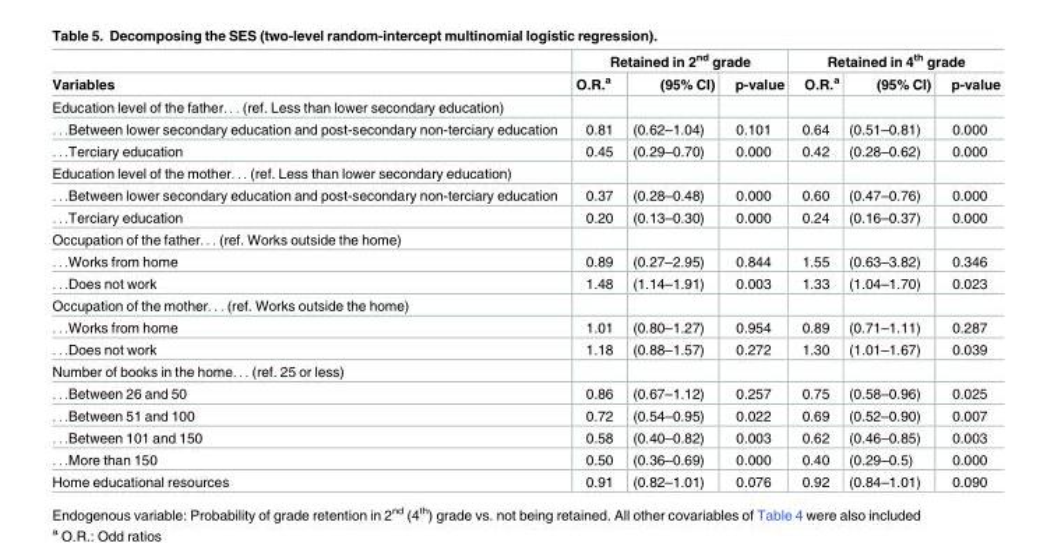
<table><thead><tr><td rowspan="2">Variables</td><td colspan="3">Retained in 2<sup>nd</sup> grade</td><td colspan="3">Retained in 4<sup>th</sup> grade</td></tr><tr><td>O.R.<sup>a</sup></td><td>(95% CI)</td><td>p-value</td><td>O.R.<sup>a</sup></td><td>(95% CI)</td><td>p-value</td></tr></thead><tbody><tr><td colspan="7">Education level of the father. . . (ref. Less than lower secondary education)</td></tr><tr><td>. . .Between lower secondary education and post-secondary non-terciary education</td><td>0.81</td><td>(0.62–1.04)</td><td>0.101</td><td>0.64</td><td>(0.51–0.81)</td><td>0.000</td></tr><tr><td>. . .Terciary education</td><td>0.45</td><td>(0.29–0.70)</td><td>0.000</td><td>0.42</td><td>(0.28–0.62)</td><td>0.000</td></tr><tr><td colspan="7">Education level of the mother. . . (ref. Less than lower secondary education)</td></tr><tr><td>. . .Between lower secondary education and post-secondary non-terciary education</td><td>0.37</td><td>(0.28–0.48)</td><td>0.000</td><td>0.60</td><td>(0.47–0.76)</td><td>0.000</td></tr><tr><td>. . .Terciary education</td><td>0.20</td><td>(0.13–0.30)</td><td>0.000</td><td>0.24</td><td>(0.16–0.37)</td><td>0.000</td></tr><tr><td colspan="7">Occupation of the father. . . (ref. Works outside the home)</td></tr><tr><td>. . .Works from home</td><td>0.89</td><td>(0.27–2.95)</td><td>0.844</td><td>1.55</td><td>(0.63–3.82)</td><td>0.346</td></tr><tr><td>. . .Does not work</td><td>1.48</td><td>(1.14–1.91)</td><td>0.003</td><td>1.33</td><td>(1.04–1.70)</td><td>0.023</td></tr><tr><td colspan="7">Occupation of the mother. . . (ref. Works outside the home)</td></tr><tr><td>. . .Works from home</td><td>1.01</td><td>(0.80–1.27)</td><td>0.954</td><td>0.89</td><td>(0.71–1.11)</td><td>0.287</td></tr><tr><td>. . .Does not work</td><td>1.18</td><td>(0.88–1.57)</td><td>0.272</td><td>1.30</td><td>(1.01–1.67)</td><td>0.039</td></tr><tr><td colspan="7">Number of books in the home. . . (ref. 25 or less)</td></tr><tr><td>. . .Between 26 and 50</td><td>0.86</td><td>(0.67–1.12)</td><td>0.257</td><td>0.75</td><td>(0.58–0.96)</td><td>0.025</td></tr><tr><td>. . .Between 51 and 100</td><td>0.72</td><td>(0.54–0.95)</td><td>0.022</td><td>0.69</td><td>(0.52–0.90)</td><td>0.007</td></tr><tr><td>. . .Between 101 and 150</td><td>0.58</td><td>(0.40–0.82)</td><td>0.003</td><td>0.62</td><td>(0.46–0.85)</td><td>0.003</td></tr><tr><td>. . .More than 150</td><td>0.50</td><td>(0.36–0.69)</td><td>0.000</td><td>0.40</td><td>(0.29–0.5)</td><td>0.000</td></tr><tr><td>Home educational resources</td><td>0.91</td><td>(0.82–1.01)</td><td>0.076</td><td>0.92</td><td>(0.84–1.01)</td><td>0.090</td></tr></tbody></table>